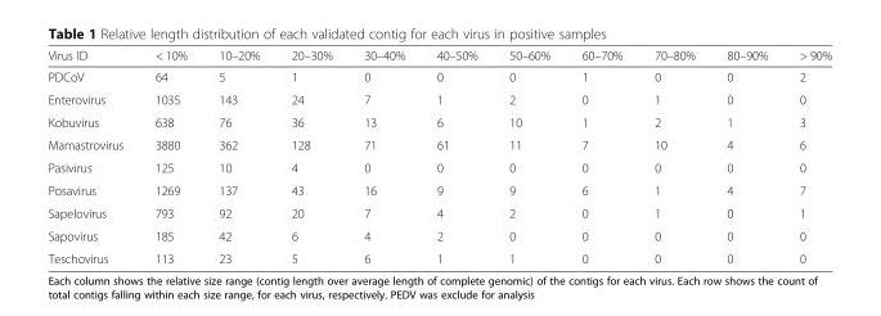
<table><thead><tr><td>Virus ID</td><td>&lt; 10%</td><td>10–20%</td><td>20–30%</td><td>30–40%</td><td>40–50%</td><td>50–60%</td><td>60–70%</td><td>70–80%</td><td>80–90%</td><td>&gt; 90%</td></tr></thead><tbody><tr><td>PDCoV</td><td>64</td><td>5</td><td>1</td><td>0</td><td>0</td><td>0</td><td>1</td><td>0</td><td>0</td><td>2</td></tr><tr><td>Enterovirus</td><td>1035</td><td>143</td><td>24</td><td>7</td><td>1</td><td>2</td><td>0</td><td>1</td><td>0</td><td>0</td></tr><tr><td>Kobuvirus</td><td>638</td><td>76</td><td>36</td><td>13</td><td>6</td><td>10</td><td>1</td><td>2</td><td>1</td><td>3</td></tr><tr><td>Mamastrovirus</td><td>3880</td><td>362</td><td>128</td><td>71</td><td>61</td><td>11</td><td>7</td><td>10</td><td>4</td><td>6</td></tr><tr><td>Pasivirus</td><td>125</td><td>10</td><td>4</td><td>0</td><td>0</td><td>0</td><td>0</td><td>0</td><td>0</td><td>0</td></tr><tr><td>Posavirus</td><td>1269</td><td>137</td><td>43</td><td>16</td><td>9</td><td>9</td><td>6</td><td>1</td><td>4</td><td>7</td></tr><tr><td>Sapelovirus</td><td>793</td><td>92</td><td>20</td><td>7</td><td>4</td><td>2</td><td>0</td><td>1</td><td>0</td><td>1</td></tr><tr><td>Sapovirus</td><td>185</td><td>42</td><td>6</td><td>4</td><td>2</td><td>0</td><td>0</td><td>0</td><td>0</td><td>0</td></tr><tr><td>Teschovirus</td><td>113</td><td>23</td><td>5</td><td>6</td><td>1</td><td>1</td><td>0</td><td>0</td><td>0</td><td>0</td></tr></tbody></table>